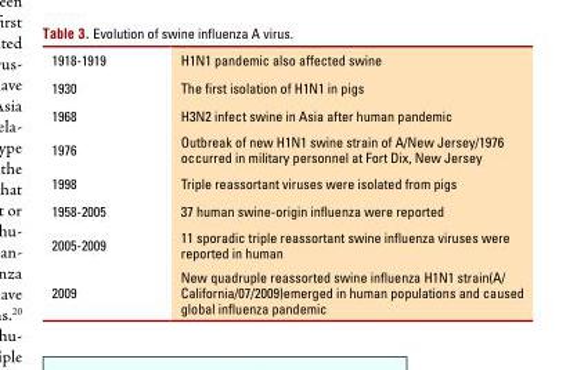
<table><tbody><tr><td>1918-1919</td><td>H1N1 pandemic also affected swine</td></tr><tr><td>1930</td><td>The first isolation of H1N1 in pigs</td></tr><tr><td>1968</td><td>H3N2 infect swine in Asia after human pandemic</td></tr><tr><td>1976</td><td>Outbreak of new H1N1 swine strain of A/New Jersey/1976 occurred in military personnel at Fort Dix, New Jersey</td></tr><tr><td>1998</td><td>Triple reassortant viruses were isolated from pigs</td></tr><tr><td>1958-2005</td><td>37 human swine-origin influenza were reported</td></tr><tr><td>2005-2009</td><td>11 sporadic triple reassortant swine influenza viruses were reported in human</td></tr><tr><td>2009</td><td>New quadruple reassorted swine influenza H1N1 strain(A/ California/07/2009)emerged in human populations and caused global influenza pandemic</td></tr></tbody></table>